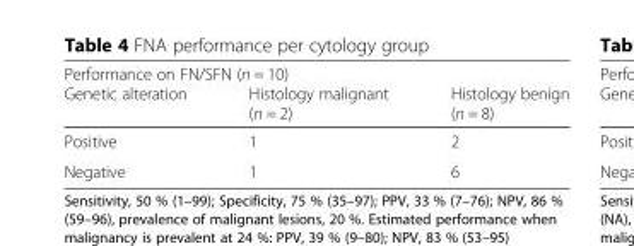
<table><thead><tr><td colspan="3">Performance on FN/SFN (n = 10)</td></tr><tr><td>Genetic alteration</td><td>Histology malignant (n = 2)</td><td>Histology benign (n = 8)</td></tr></thead><tbody><tr><td>Positive</td><td>1</td><td>2</td></tr><tr><td>Negative</td><td>1</td><td>6</td></tr></tbody></table>